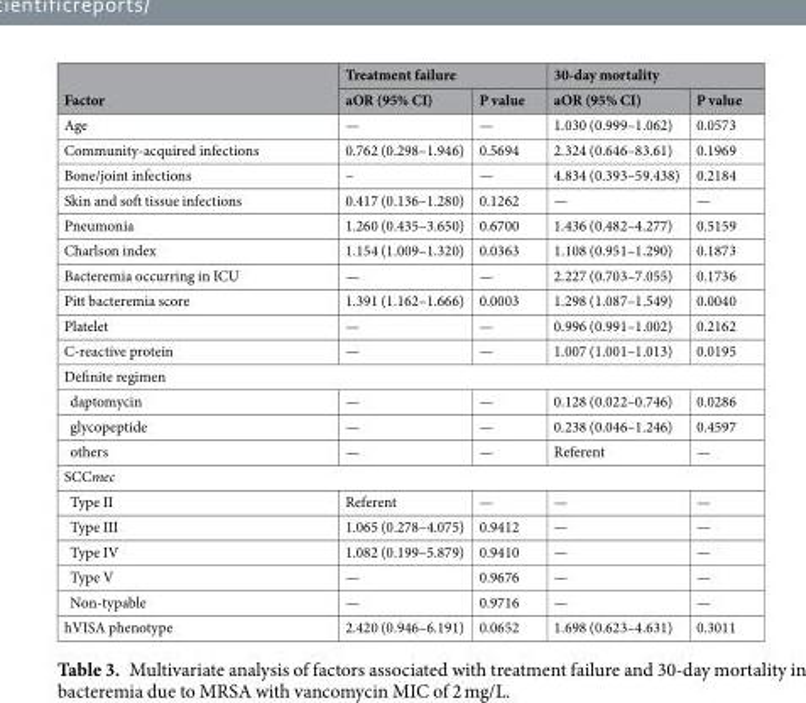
<table><thead><tr><td rowspan="2">Factor</td><td colspan="2">Treatment failure</td><td colspan="2">30-day mortality</td></tr><tr><td>aOR (95% CI)</td><td>P value</td><td>aOR (95% CI)</td><td>P value</td></tr></thead><tbody><tr><td>Age</td><td>—</td><td>—</td><td>1.030 (0.999–1.062)</td><td>0.0573</td></tr><tr><td>Community-acquired infections</td><td>0.762 (0.298–1.946)</td><td>0.5694</td><td>2.324 (0.646–83.61)</td><td>0.1969</td></tr><tr><td>Bone/joint infections</td><td>–</td><td>—</td><td>4.834 (0.393–59.438)</td><td>0.2184</td></tr><tr><td>Skin and soft tissue infections</td><td>0.417 (0.136–1.280)</td><td>0.1262</td><td>—</td><td>—</td></tr><tr><td>Pneumonia</td><td>1.260 (0.435–3.650)</td><td>0.6700</td><td>1.436 (0.482–4.277)</td><td>0.5159</td></tr><tr><td>Charlson index</td><td>1.154 (1.009–1.320)</td><td>0.0363</td><td>1.108 (0.951–1.290)</td><td>0.1873</td></tr><tr><td>Bacteremia occurring in ICU</td><td>—</td><td>—</td><td>2.227 (0.703–7.055)</td><td>0.1736</td></tr><tr><td>Pitt bacteremia score</td><td>1.391 (1.162–1.666)</td><td>0.0003</td><td>1.298 (1.087–1.549)</td><td>0.0040</td></tr><tr><td>Platelet</td><td>—</td><td>—</td><td>0.996 (0.991–1.002)</td><td>0.2162</td></tr><tr><td>C-reactive protein</td><td>—</td><td>—</td><td>1.007 (1.001–1.013)</td><td>0.0195</td></tr><tr><td colspan="5">Definite regimen</td></tr><tr><td>daptomycin</td><td>—</td><td>—</td><td>0.128 (0.022–0.746)</td><td>0.0286</td></tr><tr><td>glycopeptide</td><td>—</td><td>—</td><td>0.238 (0.046–1.246)</td><td>0.4597</td></tr><tr><td>others</td><td>—</td><td>—</td><td>Referent</td><td>—</td></tr><tr><td colspan="5">SCCmec</td></tr><tr><td>Type II</td><td>Referent</td><td>—</td><td>—</td><td>—</td></tr><tr><td>Type III</td><td>1.065 (0.278–4.075)</td><td>0.9412</td><td>—</td><td>—</td></tr><tr><td>Type IV</td><td>1.082 (0.199–5.879)</td><td>0.9410</td><td>—</td><td>—</td></tr><tr><td>Type V</td><td>—</td><td>0.9676</td><td>—</td><td>—</td></tr><tr><td>Non-typable</td><td>—</td><td>0.9716</td><td>—</td><td>—</td></tr><tr><td>hVISA phenotype</td><td>2.420 (0.946–6.191)</td><td>0.0652</td><td>1.698 (0.623–4.631)</td><td>0.3011</td></tr></tbody></table>